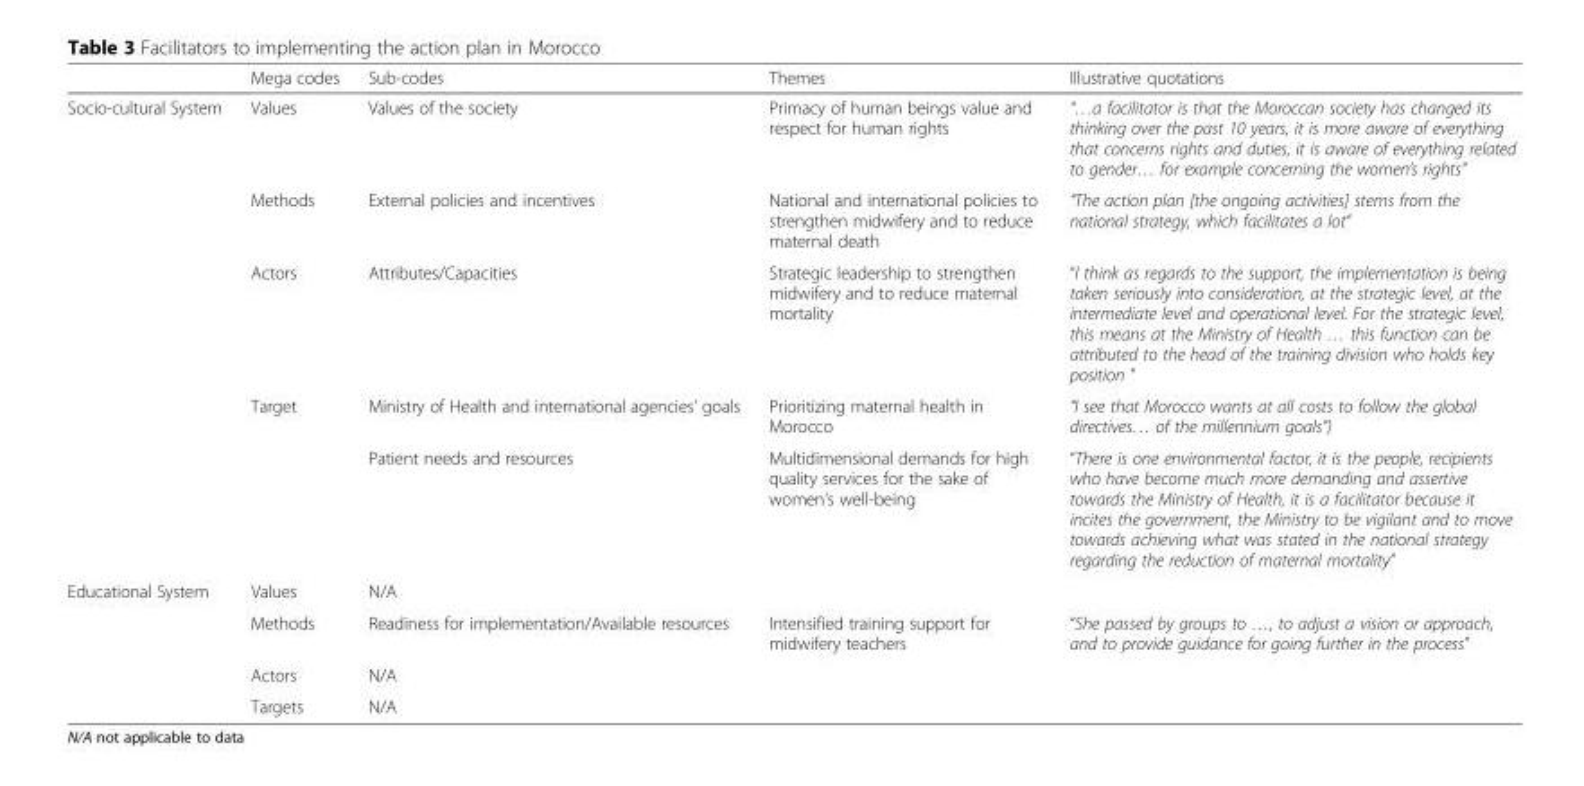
<table><thead><tr><td></td><td>Mega codes</td><td>Sub-codes</td><td>Themes</td><td>Illustrative quotations</td></tr></thead><tbody><tr><td rowspan="5">Socio-cultural System</td><td>Values</td><td>Values of the society</td><td>Primacy of human beings value and respect for human rights</td><td>“…a facilitator is that the Moroccan society has changed its thinking over the past 10 years, it is more aware of everything that concerns rights and duties, it is aware of everything related to gender… for example concerning the women’s rights”</td></tr><tr><td>Methods</td><td>External policies and incentives</td><td>National and international policies to strengthen midwifery and to reduce maternal death</td><td>“The action plan [the ongoing activities] stems from the national strategy, which facilitates a lot”</td></tr><tr><td>Actors</td><td>Attributes/Capacities</td><td>Strategic leadership to strengthen midwifery and to reduce maternal mortality</td><td>“I think as regards to the support, the implementation is being taken seriously into consideration, at the strategic level, at the intermediate level and operational level. For the strategic level, this means at the Ministry of Health … this function can be attributed to the head of the training division who holds key position ”</td></tr><tr><td rowspan="2">Target</td><td>Ministry of Health and international agencies’ goals</td><td>Prioritizing maternal health in Morocco</td><td>“I see that Morocco wants at all costs to follow the global directives… of the millennium goals”)</td></tr><tr><td>Patient needs and resources</td><td>Multidimensional demands for high quality services for the sake of women’s well-being</td><td>“There is one environmental factor, it is the people, recipients who have become much more demanding and assertive towards the Ministry of Health, it is a facilitator because it incites the government, the Ministry to be vigilant and to move towards achieving what was stated in the national strategy regarding the reduction of maternal mortality”</td></tr><tr><td rowspan="4">Educational System</td><td>Values</td><td>N/A</td><td></td><td></td></tr><tr><td>Methods</td><td>Readiness for implementation/Available resources</td><td>Intensified training support for midwifery teachers</td><td>“She passed by groups to …, to adjust a vision or approach, and to provide guidance for going further in the process”</td></tr><tr><td>Actors</td><td>N/A</td><td></td><td></td></tr><tr><td>Targets</td><td>N/A</td><td></td><td></td></tr></tbody></table>